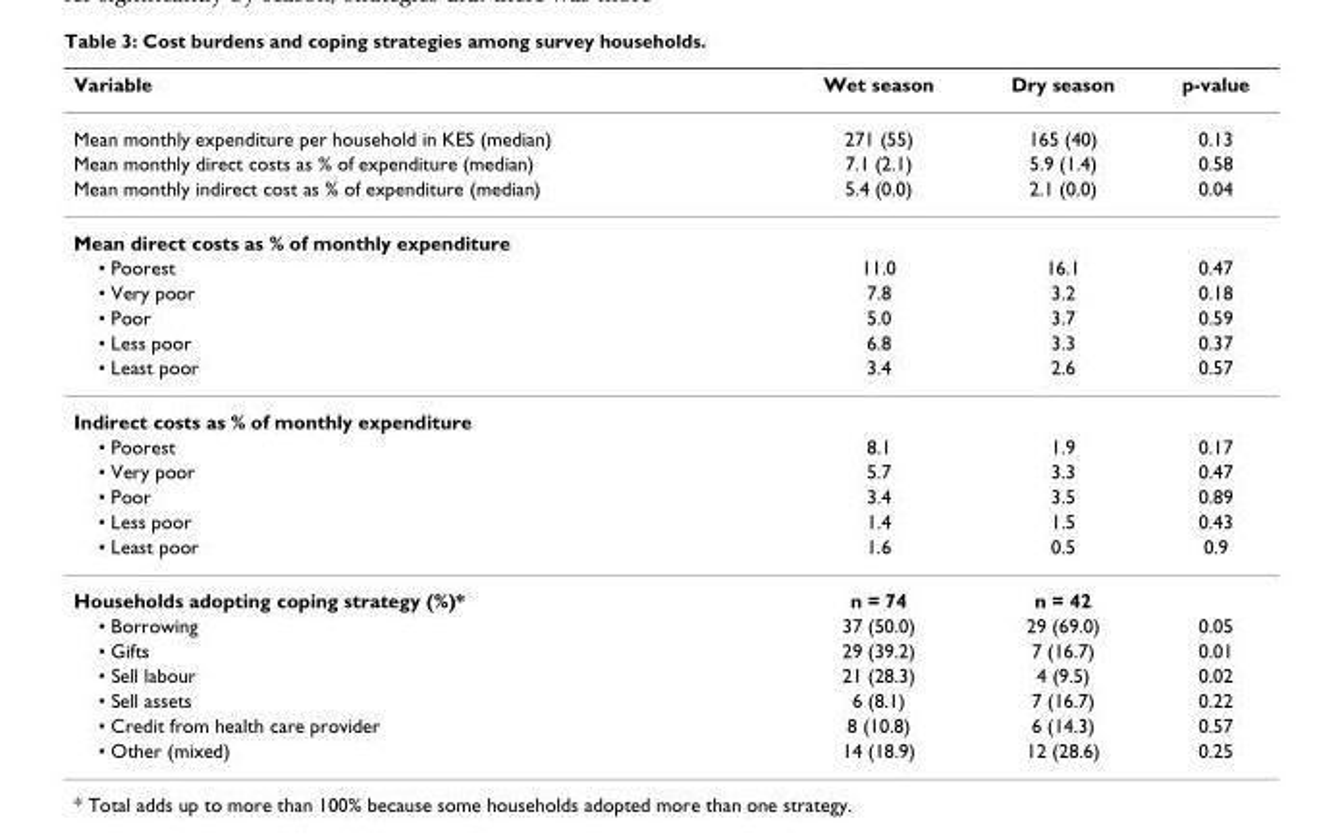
<table><thead><tr><td>Variable</td><td>Wet season</td><td>Dry season</td><td>p-value</td></tr></thead><tbody><tr><td>Mean monthly expenditure per household in KES (median)</td><td>271 (55)</td><td>165 (40)</td><td>0.13</td></tr><tr><td>Mean monthly direct costs as % of expenditure (median)</td><td>7.1 (2.1)</td><td>5.9 (1.4)</td><td>0.58</td></tr><tr><td>Mean monthly indirect cost as % of expenditure (median)</td><td>5.4 (0.0)</td><td>2.1 (0.0)</td><td>0.04</td></tr><tr><td colspan="4">Mean direct costs as % of monthly expenditure</td></tr><tr><td>• Poorest</td><td>11.0</td><td>16.1</td><td>0.47</td></tr><tr><td>• Very poor</td><td>7.8</td><td>3.2</td><td>0.18</td></tr><tr><td>• Poor</td><td>5.0</td><td>3.7</td><td>0.59</td></tr><tr><td>• Less poor</td><td>6.8</td><td>3.3</td><td>0.37</td></tr><tr><td>• Least poor</td><td>3.4</td><td>2.6</td><td>0.57</td></tr><tr><td colspan="4">Indirect costs as % of monthly expenditure</td></tr><tr><td>• Poorest</td><td>8.1</td><td>1.9</td><td>0.17</td></tr><tr><td>• Very poor</td><td>5.7</td><td>3.3</td><td>0.47</td></tr><tr><td>• Poor</td><td>3.4</td><td>3.5</td><td>0.89</td></tr><tr><td>• Less poor</td><td>1.4</td><td>1.5</td><td>0.43</td></tr><tr><td>• Least poor</td><td>1.6</td><td>0.5</td><td>0.9</td></tr><tr><td>Households adopting coping strategy (%)*</td><td>n = 74</td><td>n = 42</td><td></td></tr><tr><td>• Borrowing</td><td>37 (50.0)</td><td>29 (69.0)</td><td>0.05</td></tr><tr><td>• Gifts</td><td>29 (39.2)</td><td>7 (16.7)</td><td>0.01</td></tr><tr><td>• Sell labour</td><td>21 (28.3)</td><td>4 (9.5)</td><td>0.02</td></tr><tr><td>• Sell assets</td><td>6 (8.1)</td><td>7 (16.7)</td><td>0.22</td></tr><tr><td>• Credit from health care provider</td><td>8 (10.8)</td><td>6 (14.3)</td><td>0.57</td></tr><tr><td>• Other (mixed)</td><td>14 (18.9)</td><td>12 (28.6)</td><td>0.25</td></tr></tbody></table>